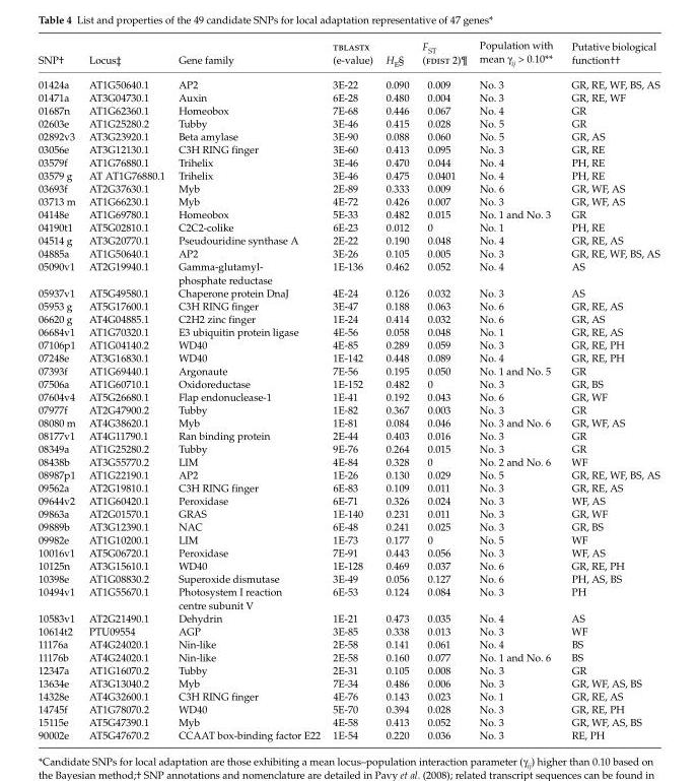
<table><thead><tr><td>SNP†</td><td>Locus‡</td><td>Gene family</td><td>tblastx (e-value)</td><td>H<sub>E</sub>§</td><td>F<sub>ST</sub> (fdist 2)¶</td><td>Population with mean γ<sub>ij</sub> &gt; 0.10**</td><td>Putative biological function††</td></tr></thead><tbody><tr><td>01424a</td><td>AT1G50640.1</td><td>AP2</td><td>3E-22</td><td>0.090</td><td>0.009</td><td>No. 3</td><td>GR, RE, WF, BS, AS</td></tr><tr><td>01471a</td><td>AT3G04730.1</td><td>Auxin</td><td>6E-28</td><td>0.480</td><td>0.004</td><td>No. 3</td><td>GR, RE, WF</td></tr><tr><td>01687n</td><td>AT1G62360.1</td><td>Homeobox</td><td>7E-68</td><td>0.446</td><td>0.067</td><td>No. 4</td><td>GR</td></tr><tr><td>02603e</td><td>AT1G25280.2</td><td>Tubby</td><td>3E-46</td><td>0.415</td><td>0.028</td><td>No. 5</td><td>GR</td></tr><tr><td>02892v3</td><td>AT3G23920.1</td><td>Beta amylase</td><td>3E-90</td><td>0.088</td><td>0.060</td><td>No. 5</td><td>GR, AS</td></tr><tr><td>03056e</td><td>AT3G12130.1</td><td>C3H RING finger</td><td>3E-60</td><td>0.413</td><td>0.095</td><td>No. 3</td><td>GR, RE</td></tr><tr><td>03579f</td><td>AT1G76880.1</td><td>Trihelix</td><td>3E-46</td><td>0.470</td><td>0.044</td><td>No. 4</td><td>PH, RE</td></tr><tr><td>03579 g</td><td>AT AT1G76880.1</td><td>Trihelix</td><td>3E-46</td><td>0.475</td><td>0.0401</td><td>No. 4</td><td>PH, RE</td></tr><tr><td>03693f</td><td>AT2G37630.1</td><td>Myb</td><td>2E-89</td><td>0.333</td><td>0.009</td><td>No. 6</td><td>GR, WF, AS</td></tr><tr><td>03713 m</td><td>AT1G66230.1</td><td>Myb</td><td>4E-72</td><td>0.426</td><td>0.007</td><td>No. 3</td><td>GR, WF, AS</td></tr><tr><td>04148e</td><td>AT1G69780.1</td><td>Homeobox</td><td>5E-33</td><td>0.482</td><td>0.015</td><td>No. 1 and No. 3</td><td>GR</td></tr><tr><td>04190t1</td><td>AT5G02810.1</td><td>C2C2-colike</td><td>6E-23</td><td>0.012</td><td>0</td><td>No. 1</td><td>PH, RE</td></tr><tr><td>04514 g</td><td>AT3G20770.1</td><td>Pseudouridine synthase A</td><td>2E-22</td><td>0.190</td><td>0.048</td><td>No. 4</td><td>GR, RE, AS</td></tr><tr><td>04885a</td><td>AT1G50640.1</td><td>AP2</td><td>3E-26</td><td>0.105</td><td>0.005</td><td>No. 3</td><td>GR, RE, WF, BS, AS</td></tr><tr><td>05090v1</td><td>AT2G19940.1</td><td>Gamma-glutamyl- phosphate reductase</td><td>1E-136</td><td>0.462</td><td>0.052</td><td>No. 4</td><td>AS</td></tr><tr><td>05937v1</td><td>AT5G49580.1</td><td>Chaperone protein DnaJ</td><td>4E-24</td><td>0.126</td><td>0.032</td><td>No. 3</td><td>AS</td></tr><tr><td>05953 g</td><td>AT5G17600.1</td><td>C3H RING finger</td><td>3E-47</td><td>0.188</td><td>0.063</td><td>No. 6</td><td>GR, RE, AS</td></tr><tr><td>06620 g</td><td>AT4G04885.1</td><td>C2H2 zinc finger</td><td>1E-24</td><td>0.414</td><td>0.032</td><td>No. 6</td><td>GR, AS</td></tr><tr><td>06684v1</td><td>AT1G70320.1</td><td>E3 ubiquitin protein ligase</td><td>4E-56</td><td>0.058</td><td>0.048</td><td>No. 1</td><td>GR, RE, AS</td></tr><tr><td>07106p1</td><td>AT1G04140.2</td><td>WD40</td><td>4E-85</td><td>0.289</td><td>0.059</td><td>No. 3</td><td>GR, RE, PH</td></tr><tr><td>07248e</td><td>AT3G16830.1</td><td>WD40</td><td>1E-142</td><td>0.448</td><td>0.089</td><td>No. 4</td><td>GR, RE, PH</td></tr><tr><td>07393f</td><td>AT1G69440.1</td><td>Argonaute</td><td>7E-56</td><td>0.195</td><td>0.050</td><td>No. 1 and No. 5</td><td>GR</td></tr><tr><td>07506a</td><td>AT1G60710.1</td><td>Oxidoreductase</td><td>1E-152</td><td>0.482</td><td>0</td><td>No. 3</td><td>GR, BS</td></tr><tr><td>07604v4</td><td>AT5G26680.1</td><td>Flap endonuclease-1</td><td>1E-41</td><td>0.192</td><td>0.043</td><td>No. 6</td><td>GR, WF</td></tr><tr><td>07977f</td><td>AT2G47900.2</td><td>Tubby</td><td>1E-82</td><td>0.367</td><td>0.003</td><td>No. 3</td><td>GR</td></tr><tr><td>08080 m</td><td>AT4G38620.1</td><td>Myb</td><td>1E-81</td><td>0.084</td><td>0.046</td><td>No. 3 and No. 6</td><td>GR, WF, AS</td></tr><tr><td>08177v1</td><td>AT4G11790.1</td><td>Ran binding protein</td><td>2E-44</td><td>0.403</td><td>0.016</td><td>No. 3</td><td>GR</td></tr><tr><td>08349a</td><td>AT1G25280.2</td><td>Tubby</td><td>9E-76</td><td>0.264</td><td>0.015</td><td>No. 3</td><td>GR</td></tr><tr><td>08438b</td><td>AT3G55770.2</td><td>LIM</td><td>4E-84</td><td>0.328</td><td>0</td><td>No. 2 and No. 6</td><td>WF</td></tr><tr><td>08987p1</td><td>AT1G22190.1</td><td>AP2</td><td>1E-26</td><td>0.130</td><td>0.029</td><td>No. 5</td><td>GR, RE, WF, BS, AS</td></tr><tr><td>09562a</td><td>AT2G19810.1</td><td>C3H RING finger</td><td>6E-83</td><td>0.109</td><td>0.011</td><td>No. 3</td><td>GR, RE, AS</td></tr><tr><td>09644v2</td><td>AT1G60420.1</td><td>Peroxidase</td><td>6E-71</td><td>0.326</td><td>0.024</td><td>No. 3</td><td>WF, AS</td></tr><tr><td>09863a</td><td>AT2G01570.1</td><td>GRAS</td><td>1E-140</td><td>0.231</td><td>0.011</td><td>No. 3</td><td>GR, WF</td></tr><tr><td>09889b</td><td>AT3G12390.1</td><td>NAC</td><td>6E-48</td><td>0.241</td><td>0.025</td><td>No. 3</td><td>GR, BS</td></tr><tr><td>09982e</td><td>AT1G10200.1</td><td>LIM</td><td>1E-73</td><td>0.177</td><td>0</td><td>No. 5</td><td>WF</td></tr><tr><td>10016v1</td><td>AT5G06720.1</td><td>Peroxidase</td><td>7E-91</td><td>0.443</td><td>0.056</td><td>No. 3</td><td>WF, AS</td></tr><tr><td>10125n</td><td>AT3G15610.1</td><td>WD40</td><td>1E-128</td><td>0.469</td><td>0.037</td><td>No. 6</td><td>GR, RE, PH</td></tr><tr><td>10398e</td><td>AT1G08830.2</td><td>Superoxide dismutase</td><td>3E-49</td><td>0.056</td><td>0.127</td><td>No. 6</td><td>PH, AS, BS</td></tr><tr><td>10494v1</td><td>AT1G55670.1</td><td>Photosystem I reaction centre subunit V</td><td>6E-53</td><td>0.124</td><td>0.084</td><td>No. 3</td><td>PH</td></tr><tr><td>10583v1</td><td>AT2G21490.1</td><td>Dehydrin</td><td>1E-21</td><td>0.473</td><td>0.035</td><td>No. 4</td><td>AS</td></tr><tr><td>10614t2</td><td>PTU09554</td><td>AGP</td><td>3E-85</td><td>0.338</td><td>0.013</td><td>No. 3</td><td>WF</td></tr><tr><td>11176a</td><td>AT4G24020.1</td><td>Nin-like</td><td>2E-58</td><td>0.141</td><td>0.061</td><td>No. 4</td><td>BS</td></tr><tr><td>11176b</td><td>AT4G24020.1</td><td>Nin-like</td><td>2E-58</td><td>0.160</td><td>0.077</td><td>No. 1 and No. 6</td><td>BS</td></tr><tr><td>12347a</td><td>AT1G16070.2</td><td>Tubby</td><td>2E-31</td><td>0.105</td><td>0.008</td><td>No. 3</td><td>GR</td></tr><tr><td>13634e</td><td>AT3G13040.2</td><td>Myb</td><td>7E-34</td><td>0.486</td><td>0.006</td><td>No. 3</td><td>GR, WF, AS, BS</td></tr><tr><td>14328e</td><td>AT4G32600.1</td><td>C3H RING finger</td><td>4E-76</td><td>0.143</td><td>0.023</td><td>No. 1</td><td>GR, RE, AS</td></tr><tr><td>14745f</td><td>AT1G78070.2</td><td>WD40</td><td>5E-70</td><td>0.394</td><td>0.028</td><td>No. 3</td><td>GR, RE, PH</td></tr><tr><td>15115e</td><td>AT5G47390.1</td><td>Myb</td><td>4E-58</td><td>0.413</td><td>0.052</td><td>No. 3</td><td>GR, WF, AS, BS</td></tr><tr><td>90002e</td><td>AT5G47670.2</td><td>CCAAT box-binding factor E22</td><td>1E-54</td><td>0.220</td><td>0.036</td><td>No. 3</td><td>RE, PH</td></tr></tbody></table>